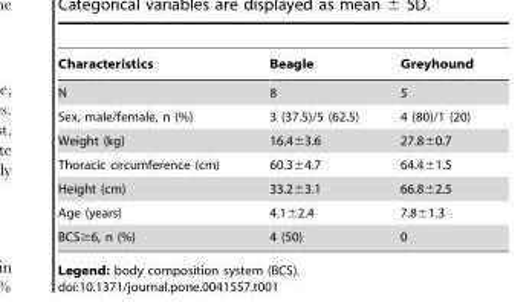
<table><thead><tr><td>Characteristics</td><td>Beagle</td><td>Greyhound</td></tr></thead><tbody><tr><td>N</td><td>8</td><td>5</td></tr><tr><td>Sex, male/female, n (%)</td><td>3 (37.5)/5 (62.5)</td><td>4 (80)/1 (20)</td></tr><tr><td>Weight (kg)</td><td>16.4±3.6</td><td>27.8±0.7</td></tr><tr><td>Thoracic circumference (cm)</td><td>60.3±4.7</td><td>64.4±1.5</td></tr><tr><td>Height (cm)</td><td>33.2±3.1</td><td>66.8±2.5</td></tr><tr><td>Age (years)</td><td>4.1±2.4</td><td>7.8±1.3</td></tr><tr><td>BCS≥6, n (%)</td><td>4 (50)</td><td>0</td></tr></tbody></table>